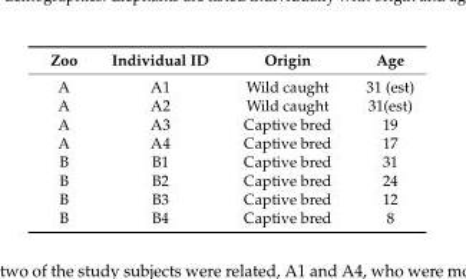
<table><thead><tr><td>Zoo</td><td>Individual ID</td><td>Origin</td><td>Age</td></tr></thead><tbody><tr><td>A</td><td>A1</td><td>Wild caught</td><td>31 (est)</td></tr><tr><td>A</td><td>A2</td><td>Wild caught</td><td>31(est)</td></tr><tr><td>A</td><td>A3</td><td>Captive bred</td><td>19</td></tr><tr><td>A</td><td>A4</td><td>Captive bred</td><td>17</td></tr><tr><td>B</td><td>B1</td><td>Captive bred</td><td>31</td></tr><tr><td>B</td><td>B2</td><td>Captive bred</td><td>24</td></tr><tr><td>B</td><td>B3</td><td>Captive bred</td><td>12</td></tr><tr><td>B</td><td>B4</td><td>Captive bred</td><td>8</td></tr></tbody></table>